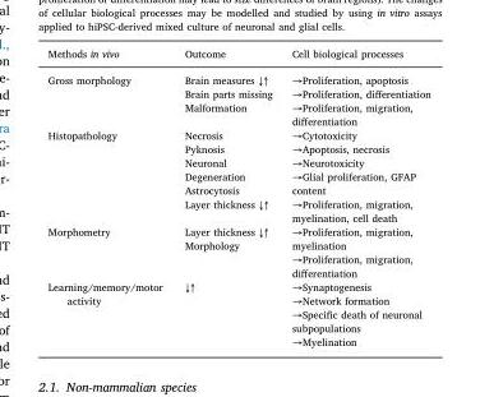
<table><thead><tr><td>Methods in vivo</td><td>Outcome</td><td>Cell biological processes</td></tr></thead><tbody><tr><td>Gross morphology</td><td>Brain measures ↓↑ Brain parts missing Malformation</td><td>→Proliferation, apoptosis →Proliferation, differentiation →Proliferation, migration, differentiation</td></tr><tr><td>Histopathology</td><td>Necrosis Pyknosis Neuronal Degeneration Astrocytosis Layer thickness ↓↑</td><td>→Cytotoxicity →Apoptosis, necrosis →Neurotoxicity →Glial proliferation, GFAP content →Proliferation, migration, myelination, cell death</td></tr><tr><td>Morphometry</td><td>Layer thickness ↓↑ Morphology</td><td>→Proliferation, migration, myelination →Proliferation, migration, differentiation</td></tr><tr><td>Learning/memory/motor activity</td><td>↓↑</td><td>→Synaptogenesis →Network formation →Specific death of neuronal subpopulations →Myelination</td></tr></tbody></table>